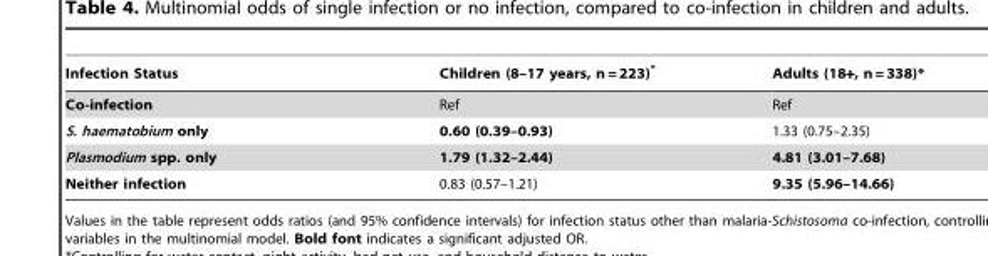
<table><thead><tr><td>Infection Status</td><td>Children (8–17 years, n = 223)*</td><td>Adults (18+, n = 338)*</td></tr></thead><tbody><tr><td>Co-infection</td><td>Ref</td><td>Ref</td></tr><tr><td>S. haematobium only</td><td>0.60 (0.39–0.93)</td><td>1.33 (0.75–2.35)</td></tr><tr><td>Plasmodium spp. only</td><td>1.79 (1.32–2.44)</td><td>4.81 (3.01–7.68)</td></tr><tr><td>Neither infection</td><td>0.83 (0.57–1.21)</td><td>9.35 (5.96–14.66)</td></tr></tbody></table>